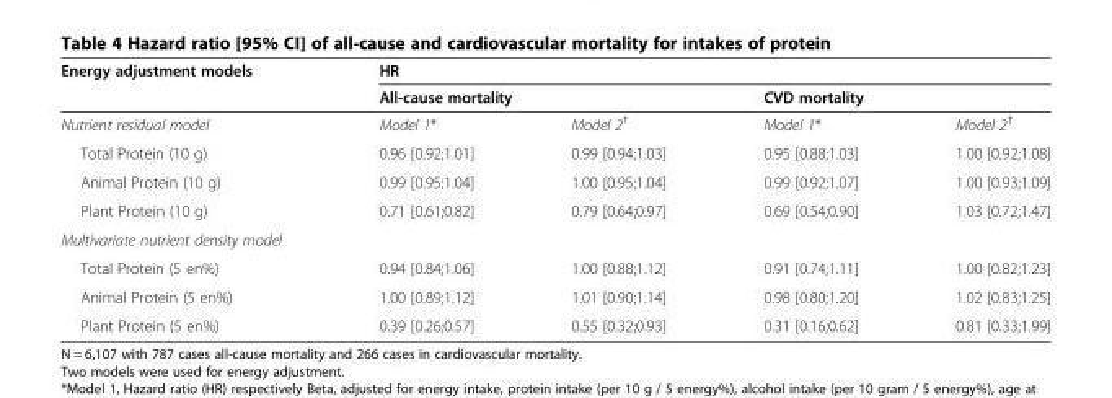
<table><thead><tr><td rowspan="3">Energy adjustment models Nutrient residual model</td><td colspan="4">HR</td></tr><tr><td colspan="2">All-cause mortality</td><td colspan="2">CVD mortality</td></tr><tr><td>Model 1*</td><td>Model 2<sup>†</sup></td><td>Model 1*</td><td>Model 2<sup>†</sup></td></tr></thead><tbody><tr><td>Total Protein (10 g)</td><td>0.96 [0.92;1.01]</td><td>0.99 [0.94;1.03]</td><td>0.95 [0.88;1.03]</td><td>1.00 [0.92;1.08]</td></tr><tr><td>Animal Protein (10 g)</td><td>0.99 [0.95;1.04]</td><td>1.00 [0.95;1.04]</td><td>0.99 [0.92;1.07]</td><td>1.00 [0.93;1.09]</td></tr><tr><td>Plant Protein (10 g)</td><td>0.71 [0.61;0.82]</td><td>0.79 [0.64;0.97]</td><td>0.69 [0.54;0.90]</td><td>1.03 [0.72;1.47]</td></tr><tr><td colspan="5">Multivariate nutrient density model</td></tr><tr><td>Total Protein (5 en%)</td><td>0.94 [0.84;1.06]</td><td>1.00 [0.88;1.12]</td><td>0.91 [0.74;1.11]</td><td>1.00 [0.82;1.23]</td></tr><tr><td>Animal Protein (5 en%)</td><td>1.00 [0.89;1.12]</td><td>1.01 [0.90;1.14]</td><td>0.98 [0.80;1.20]</td><td>1.02 [0.83;1.25]</td></tr><tr><td>Plant Protein (5 en%)</td><td>0.39 [0.26;0.57]</td><td>0.55 [0.32;0.93]</td><td>0.31 [0.16;0.62]</td><td>0.81 [0.33;1.99]</td></tr></tbody></table>